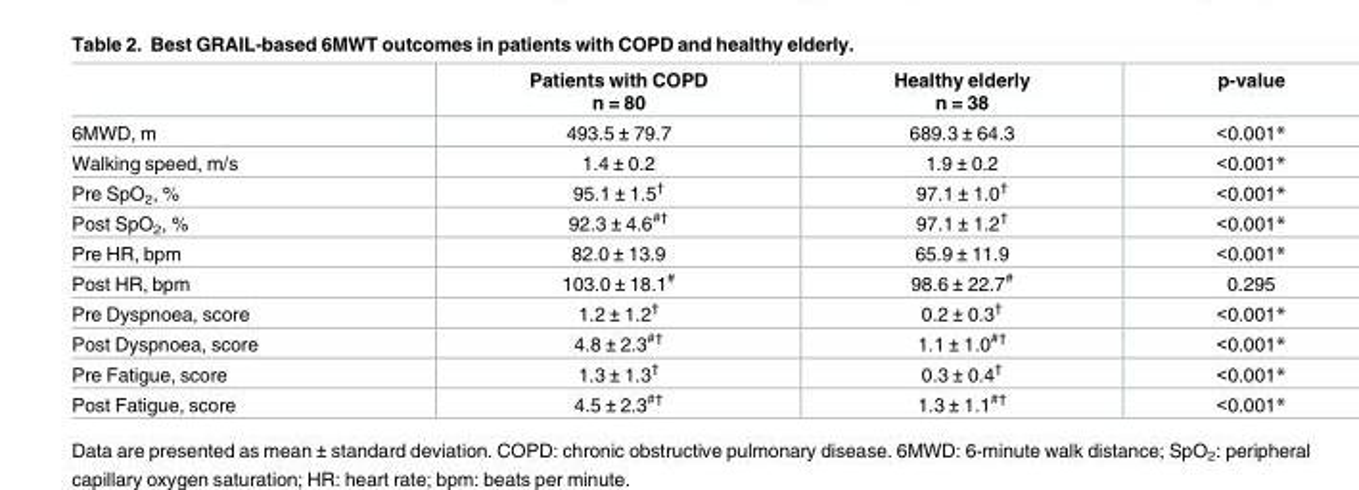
<table><thead><tr><td></td><td>Patients with COPD n = 80</td><td>Healthy elderly n = 38</td><td>p-value</td></tr></thead><tbody><tr><td>6MWD, m</td><td>493.5 ± 79.7</td><td>689.3 ± 64.3</td><td>&lt;0.001*</td></tr><tr><td>Walking speed, m/s</td><td>1.4 ± 0.2</td><td>1.9 ± 0.2</td><td>&lt;0.001*</td></tr><tr><td>Pre SpO<sub>2</sub>, %</td><td>95.1 ± 1.5<sup>†</sup></td><td>97.1 ± 1.0<sup>†</sup></td><td>&lt;0.001*</td></tr><tr><td>Post SpO<sub>2</sub>, %</td><td>92.3 ± 4.6<sup>#†</sup></td><td>97.1 ± 1.2<sup>†</sup></td><td>&lt;0.001*</td></tr><tr><td>Pre HR, bpm</td><td>82.0 ± 13.9</td><td>65.9 ± 11.9</td><td>&lt;0.001*</td></tr><tr><td>Post HR, bpm</td><td>103.0 ± 18.1<sup>#</sup></td><td>98.6 ± 22.7<sup>#</sup></td><td>0.295</td></tr><tr><td>Pre Dyspnoea, score</td><td>1.2 ± 1.2<sup>†</sup></td><td>0.2 ± 0.3<sup>†</sup></td><td>&lt;0.001*</td></tr><tr><td>Post Dyspnoea, score</td><td>4.8 ± 2.3<sup>#†</sup></td><td>1.1 ± 1.0<sup>#†</sup></td><td>&lt;0.001*</td></tr><tr><td>Pre Fatigue, score</td><td>1.3 ± 1.3<sup>†</sup></td><td>0.3 ± 0.4<sup>†</sup></td><td>&lt;0.001*</td></tr><tr><td>Post Fatigue, score</td><td>4.5 ± 2.3<sup>#†</sup></td><td>1.3 ± 1.1<sup>#†</sup></td><td>&lt;0.001*</td></tr></tbody></table>